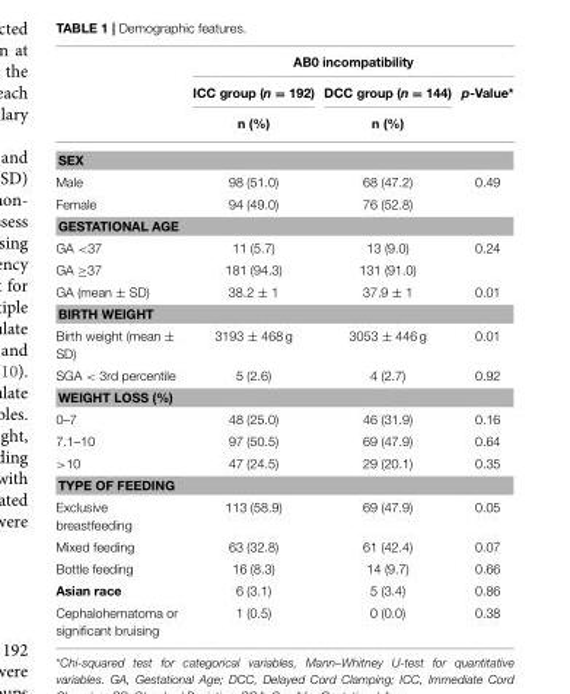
<table><thead><tr><td rowspan="3"></td><td colspan="3">AB0 incompatibility</td></tr><tr><td rowspan="2">ICC group (n = 192) n (%)</td><td rowspan="2">DCC group (n = 144) n (%)</td><td rowspan="2">p-Value*</td></tr><tr></tr></thead><tbody><tr><td colspan="4">SEX</td></tr><tr><td>Male</td><td>98 (51.0)</td><td>68 (47.2)</td><td>0.49</td></tr><tr><td>Female</td><td>94 (49.0)</td><td>76 (52.8)</td><td></td></tr><tr><td colspan="4">GESTATIONAL AGE</td></tr><tr><td>GA &lt;37</td><td>11 (5.7)</td><td>13 (9.0)</td><td>0.24</td></tr><tr><td>GA ≥37</td><td>181 (94.3)</td><td>131 (91.0)</td><td></td></tr><tr><td>GA (mean ± SD)</td><td>38.2 ± 1</td><td>37.9 ± 1</td><td>0.01</td></tr><tr><td colspan="4">BIRTH WEIGHT</td></tr><tr><td>Birth weight (mean ± SD)</td><td>3193 ± 468 g</td><td>3053 ± 446 g</td><td>0.01</td></tr><tr><td>SGA &lt; 3rd percentile</td><td>5 (2.6)</td><td>4 (2.7)</td><td>0.92</td></tr><tr><td colspan="4">WEIGHT LOSS (%)</td></tr><tr><td>0–7</td><td>48 (25.0)</td><td>46 (31.9)</td><td>0.16</td></tr><tr><td>7.1–10</td><td>97 (50.5)</td><td>69 (47.9)</td><td>0.64</td></tr><tr><td>&gt;10</td><td>47 (24.5)</td><td>29 (20.1)</td><td>0.35</td></tr><tr><td colspan="4">TYPE OF FEEDING</td></tr><tr><td>Exclusive breastfeeding</td><td>113 (58.9)</td><td>69 (47.9)</td><td>0.05</td></tr><tr><td>Mixed feeding</td><td>63 (32.8)</td><td>61 (42.4)</td><td>0.07</td></tr><tr><td>Bottle feeding</td><td>16 (8.3)</td><td>14 (9.7)</td><td>0.66</td></tr><tr><td>Asian race</td><td>6 (3.1)</td><td>5 (3.4)</td><td>0.86</td></tr><tr><td>Cephalohematoma or significant bruising</td><td>1 (0.5)</td><td>0 (0.0)</td><td>0.38</td></tr></tbody></table>